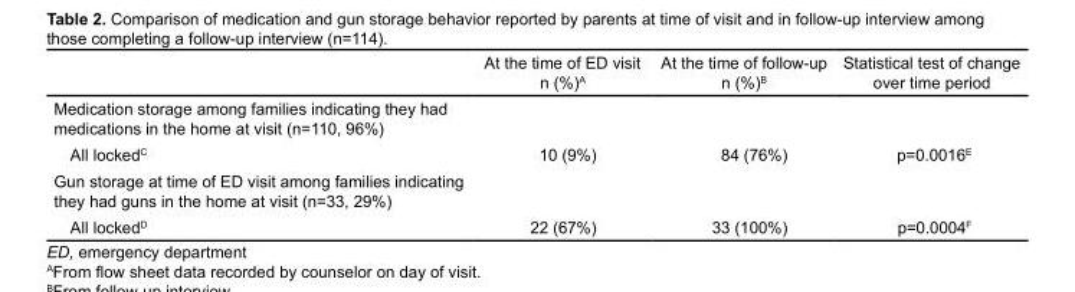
<table><thead><tr><td></td><td>At the time of ED visit n (%)<sup>A</sup></td><td>At the time of follow-up n (%)<sup>B</sup></td><td>Statistical test of change over time period</td></tr></thead><tbody><tr><td colspan="4">Medication storage among families indicating they had medications in the home at visit (n=110, 96%)</td></tr><tr><td>All locked<sup>C</sup></td><td>10 (9%)</td><td>84 (76%)</td><td>p=0.0016<sup>E</sup></td></tr><tr><td colspan="4">Gun storage at time of ED visit among families indicating they had guns in the home at visit (n=33, 29%)</td></tr><tr><td>All locked<sup>D</sup></td><td>22 (67%)</td><td>33 (100%)</td><td>p=0.0004<sup>F</sup></td></tr></tbody></table>